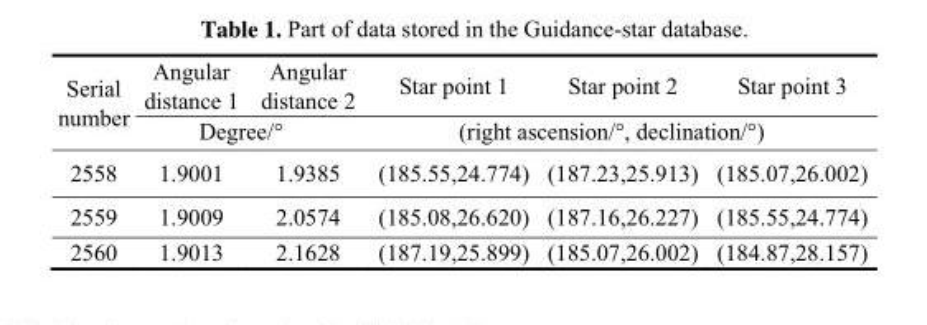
<table><thead><tr><td rowspan="2">Serial number</td><td>Angular distance 1</td><td>Angular distance 2</td><td>Star point 1</td><td>Star point 2</td><td>Star point 3</td></tr><tr><td colspan="2">Degree/°</td><td colspan="3">(right ascension/°, declination/°)</td></tr></thead><tbody><tr><td>2558</td><td>1.9001</td><td>1.9385</td><td>(185.55,24.774)</td><td>(187.23,25.913)</td><td>(185.07,26.002)</td></tr><tr><td>2559</td><td>1.9009</td><td>2.0574</td><td>(185.08,26.620)</td><td>(187.16,26.227)</td><td>(185.55,24.774)</td></tr><tr><td>2560</td><td>1.9013</td><td>2.1628</td><td>(187.19,25.899)</td><td>(185.07,26.002)</td><td>(184.87,28.157)</td></tr></tbody></table>